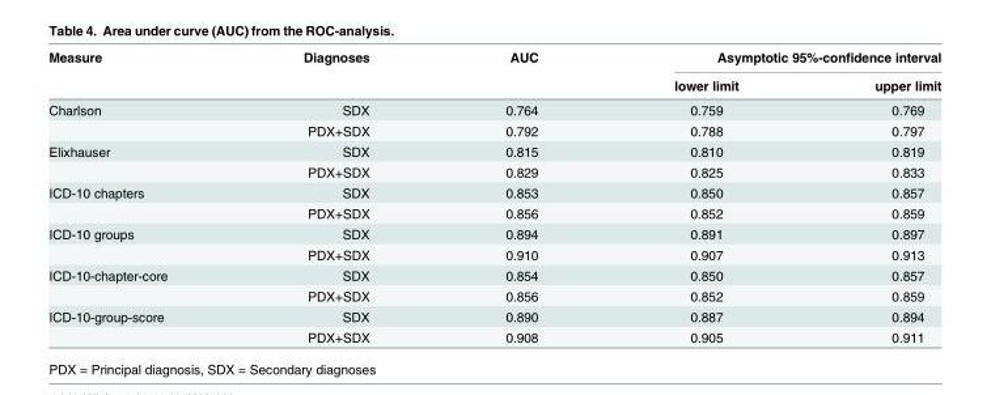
<table><thead><tr><td rowspan="2">Measure</td><td rowspan="2">Diagnoses</td><td rowspan="2">AUC</td><td colspan="2">Asymptotic 95%-confidence interval</td></tr><tr><td>lower limit</td><td>upper limit</td></tr></thead><tbody><tr><td rowspan="2">Charlson</td><td>SDX</td><td>0.764</td><td>0.759</td><td>0.769</td></tr><tr><td>PDX+SDX</td><td>0.792</td><td>0.788</td><td>0.797</td></tr><tr><td rowspan="2">Elixhauser</td><td>SDX</td><td>0.815</td><td>0.810</td><td>0.819</td></tr><tr><td>PDX+SDX</td><td>0.829</td><td>0.825</td><td>0.833</td></tr><tr><td rowspan="2">ICD-10 chapters</td><td>SDX</td><td>0.853</td><td>0.850</td><td>0.857</td></tr><tr><td>PDX+SDX</td><td>0.856</td><td>0.852</td><td>0.859</td></tr><tr><td rowspan="2">ICD-10 groups</td><td>SDX</td><td>0.894</td><td>0.891</td><td>0.897</td></tr><tr><td>PDX+SDX</td><td>0.910</td><td>0.907</td><td>0.913</td></tr><tr><td rowspan="2">ICD-10-chapter-core</td><td>SDX</td><td>0.854</td><td>0.850</td><td>0.857</td></tr><tr><td>PDX+SDX</td><td>0.856</td><td>0.852</td><td>0.859</td></tr><tr><td rowspan="2">ICD-10-group-score</td><td>SDX</td><td>0.890</td><td>0.887</td><td>0.894</td></tr><tr><td>PDX+SDX</td><td>0.908</td><td>0.905</td><td>0.911</td></tr></tbody></table>